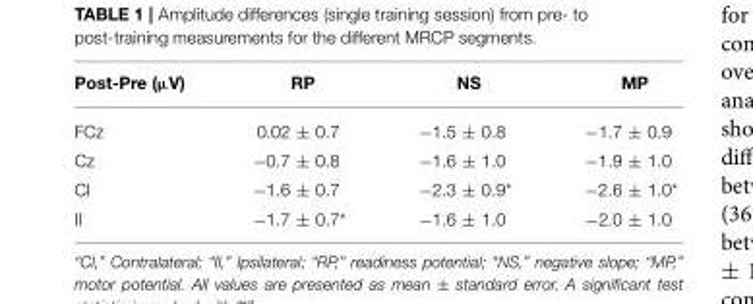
<table><thead><tr><td>Post-Pre (µV)</td><td>RP</td><td>NS</td><td>MP</td></tr></thead><tbody><tr><td>FCz</td><td>0.02 ± 0.7</td><td>−1.5 ± 0.8</td><td>−1.7 ± 0.9</td></tr><tr><td>Cz</td><td>−0.7 ± 0.8</td><td>−1.6 ± 1.0</td><td>−1.9 ± 1.0</td></tr><tr><td>Cl</td><td>−1.6 ± 0.7</td><td>−2.3 ± 0.9*</td><td>−2.6 ± 1.0*</td></tr><tr><td>Il</td><td>−1.7 ± 0.7*</td><td>−1.6 ± 1.0</td><td>−2.0 ± 1.0</td></tr></tbody></table>